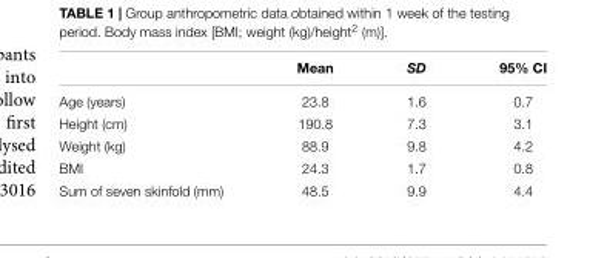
<table><thead><tr><td></td><td>Mean</td><td>SD</td><td>95% CI</td></tr></thead><tbody><tr><td>Age (years)</td><td>23.8</td><td>1.6</td><td>0.7</td></tr><tr><td>Height (cm)</td><td>190.8</td><td>7.3</td><td>3.1</td></tr><tr><td>Weight (kg)</td><td>88.9</td><td>9.8</td><td>4.2</td></tr><tr><td>BMI</td><td>24.3</td><td>1.7</td><td>0.8</td></tr><tr><td>Sum of seven skinfold (mm)</td><td>48.5</td><td>9.9</td><td>4.4</td></tr></tbody></table>